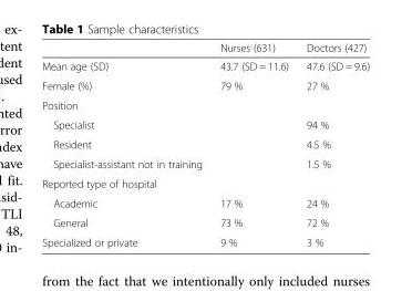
<table><thead><tr><td></td><td>Nurses (631)</td><td>Doctors (427)</td></tr></thead><tbody><tr><td>Mean age (SD)</td><td>43.7 (SD = 11.6)</td><td>47.6 (SD = 9.6)</td></tr><tr><td>Female (%)</td><td>79 %</td><td>27 %</td></tr><tr><td colspan="3">Position</td></tr><tr><td>Specialist</td><td></td><td>94 %</td></tr><tr><td>Resident</td><td></td><td>4.5 %</td></tr><tr><td>Specialist-assistant not in training</td><td></td><td>1.5 %</td></tr><tr><td colspan="3">Reported type of hospital</td></tr><tr><td>Academic</td><td>17 %</td><td>24 %</td></tr><tr><td>General</td><td>73 %</td><td>72 %</td></tr><tr><td>Specialized or private</td><td>9 %</td><td>3 %</td></tr></tbody></table>